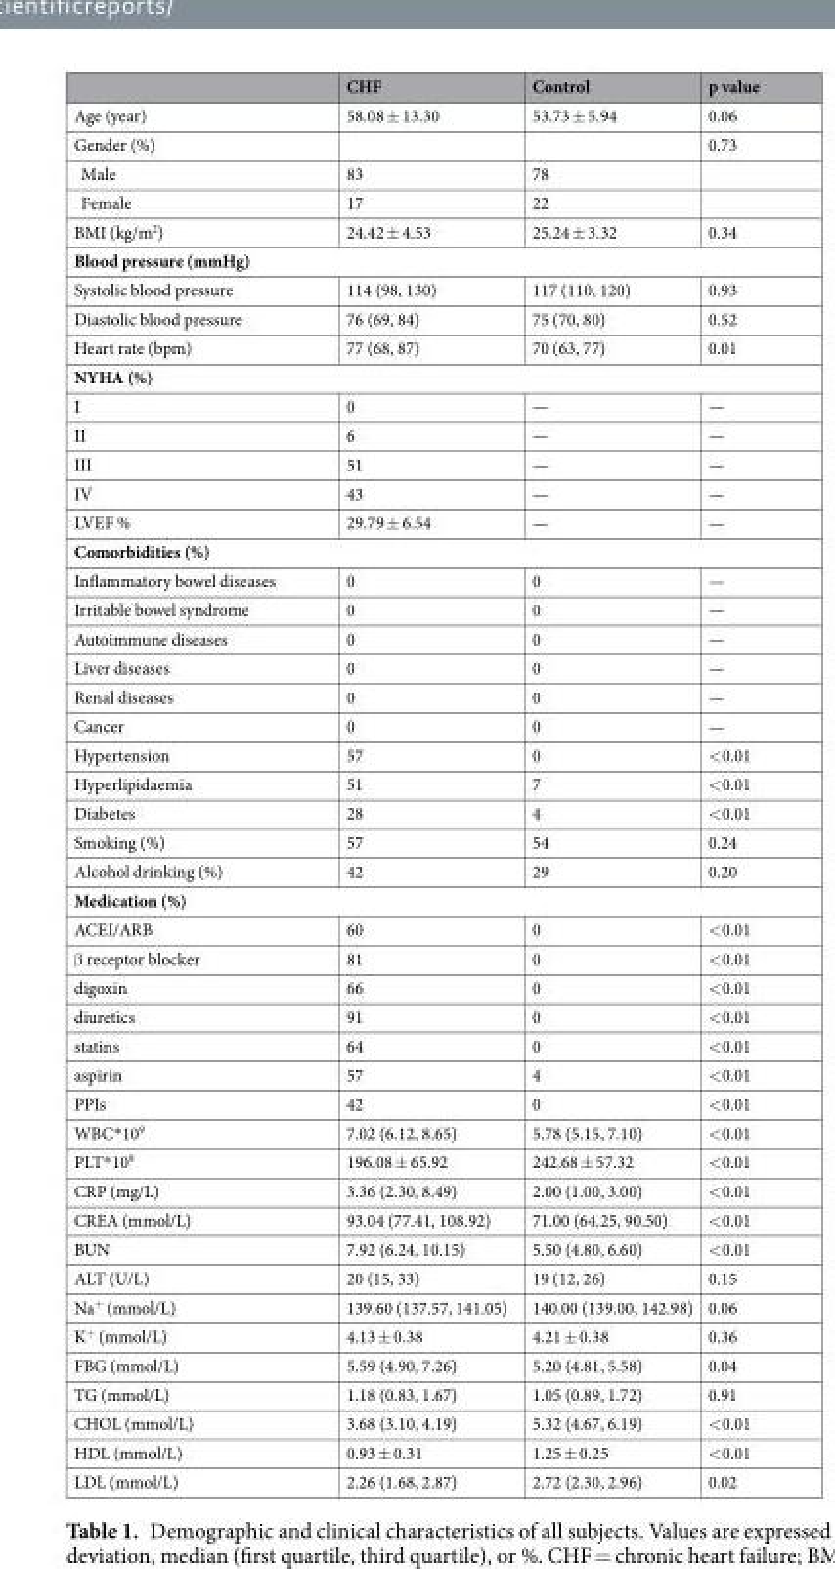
<table><thead><tr><td></td><td>CHF</td><td>Control</td><td>p value</td></tr></thead><tbody><tr><td>Age (year)</td><td>58.08 ± 13.30</td><td>53.73 ± 5.94</td><td>0.06</td></tr><tr><td>Gender (%)</td><td></td><td></td><td>0.73</td></tr><tr><td>Male</td><td>83</td><td>78</td><td></td></tr><tr><td>Female</td><td>17</td><td>22</td><td></td></tr><tr><td>BMI (kg/m<sup>2</sup>)</td><td>24.42 ± 4.53</td><td>25.24 ± 3.32</td><td>0.34</td></tr><tr><td colspan="4">Blood pressure (mmHg)</td></tr><tr><td>Systolic blood pressure</td><td>114 (98, 130)</td><td>117 (110, 120)</td><td>0.93</td></tr><tr><td>Diastolic blood pressure</td><td>76 (69, 84)</td><td>75 (70, 80)</td><td>0.52</td></tr><tr><td>Heart rate (bpm)</td><td>77 (68, 87)</td><td>70 (63, 77)</td><td>0.01</td></tr><tr><td colspan="4">NYHA (%)</td></tr><tr><td>I</td><td>0</td><td>—</td><td>—</td></tr><tr><td>II</td><td>6</td><td>—</td><td>—</td></tr><tr><td>III</td><td>51</td><td>—</td><td>—</td></tr><tr><td>IV</td><td>43</td><td>—</td><td>—</td></tr><tr><td>LVEF %</td><td>29.79 ± 6.54</td><td>—</td><td>—</td></tr><tr><td colspan="4">Comorbidities (%)</td></tr><tr><td>Inflammatory bowel diseases</td><td>0</td><td>0</td><td>—</td></tr><tr><td>Irritable bowel syndrome</td><td>0</td><td>0</td><td>—</td></tr><tr><td>Autoimmune diseases</td><td>0</td><td>0</td><td>—</td></tr><tr><td>Liver diseases</td><td>0</td><td>0</td><td>—</td></tr><tr><td>Renal diseases</td><td>0</td><td>0</td><td>—</td></tr><tr><td>Cancer</td><td>0</td><td>0</td><td>—</td></tr><tr><td>Hypertension</td><td>57</td><td>0</td><td>&lt;0.01</td></tr><tr><td>Hyperlipidaemia</td><td>51</td><td>7</td><td>&lt;0.01</td></tr><tr><td>Diabetes</td><td>28</td><td>4</td><td>&lt;0.01</td></tr><tr><td>Smoking (%)</td><td>57</td><td>54</td><td>0.24</td></tr><tr><td>Alcohol drinking (%)</td><td>42</td><td>29</td><td>0.20</td></tr><tr><td colspan="4">Medication (%)</td></tr><tr><td>ACEI/ARB</td><td>60</td><td>0</td><td>&lt;0.01</td></tr><tr><td>β receptor blocker</td><td>81</td><td>0</td><td>&lt;0.01</td></tr><tr><td>digoxin</td><td>66</td><td>0</td><td>&lt;0.01</td></tr><tr><td>diuretics</td><td>91</td><td>0</td><td>&lt;0.01</td></tr><tr><td>statins</td><td>64</td><td>0</td><td>&lt;0.01</td></tr><tr><td>aspirin</td><td>57</td><td>4</td><td>&lt;0.01</td></tr><tr><td>PPIs</td><td>42</td><td>0</td><td>&lt;0.01</td></tr><tr><td>WBC*10<sup>9</sup></td><td>7.02 (6.12, 8.65)</td><td>5.78 (5.15, 7.10)</td><td>&lt;0.01</td></tr><tr><td>PLT*10<sup>9</sup></td><td>196.08 ± 65.92</td><td>242.68 ± 57.32</td><td>&lt;0.01</td></tr><tr><td>CRP (mg/L)</td><td>3.36 (2.30, 8.49)</td><td>2.00 (1.00, 3.00)</td><td>&lt;0.01</td></tr><tr><td>CREA (mmol/L)</td><td>93.04 (77.41, 108.92)</td><td>71.00 (64.25, 90.50)</td><td>&lt;0.01</td></tr><tr><td>BUN</td><td>7.92 (6.24, 10.15)</td><td>5.50 (4.80, 6.60)</td><td>&lt;0.01</td></tr><tr><td>ALT (U/L)</td><td>20 (15, 33)</td><td>19 (12, 26)</td><td>0.15</td></tr><tr><td>Na<sup>+</sup> (mmol/L)</td><td>139.60 (137.57, 141.05)</td><td>140.00 (139.00, 142.98)</td><td>0.06</td></tr><tr><td>K<sup>+</sup> (mmol/L)</td><td>4.13 ± 0.38</td><td>4.21 ± 0.38</td><td>0.36</td></tr><tr><td>FBG (mmol/L)</td><td>5.59 (4.90, 7.26)</td><td>5.20 (4.81, 5.58)</td><td>0.04</td></tr><tr><td>TG (mmol/L)</td><td>1.18 (0.83, 1.67)</td><td>1.05 (0.89, 1.72)</td><td>0.91</td></tr><tr><td>CHOL (mmol/L)</td><td>3.68 (3.10, 4.19)</td><td>5.32 (4.67, 6.19)</td><td>&lt;0.01</td></tr><tr><td>HDL (mmol/L)</td><td>0.93 ± 0.31</td><td>1.25 ± 0.25</td><td>&lt;0.01</td></tr><tr><td>LDL (mmol/L)</td><td>2.26 (1.68, 2.87)</td><td>2.72 (2.30, 2.96)</td><td>0.02</td></tr></tbody></table>